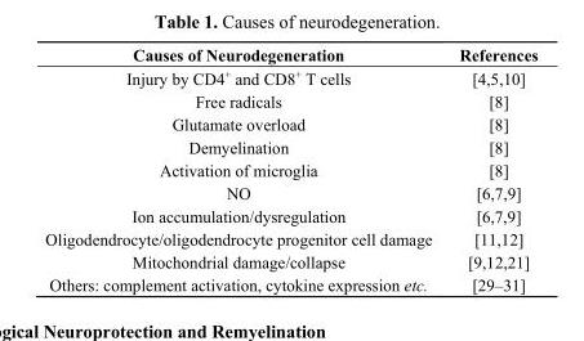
<table><thead><tr><td>Causes of Neurodegeneration</td><td>References</td></tr></thead><tbody><tr><td>Injury by CD4<sup>+</sup> and CD8<sup>+</sup> T cells</td><td>[4,5,10]</td></tr><tr><td>Free radicals</td><td>[8]</td></tr><tr><td>Glutamate overload</td><td>[8]</td></tr><tr><td>Demyelination</td><td>[8]</td></tr><tr><td>Activation of microglia</td><td>[8]</td></tr><tr><td>NO</td><td>[6,7,9]</td></tr><tr><td>Ion accumulation/dysregulation</td><td>[6,7,9]</td></tr><tr><td>Oligodendrocyte/oligodendrocyte progenitor cell damage</td><td>[11,12]</td></tr><tr><td>Mitochondrial damage/collapse</td><td>[9,12,21]</td></tr><tr><td>Others: complement activation, cytokine expression etc.</td><td>[29–31]</td></tr></tbody></table>